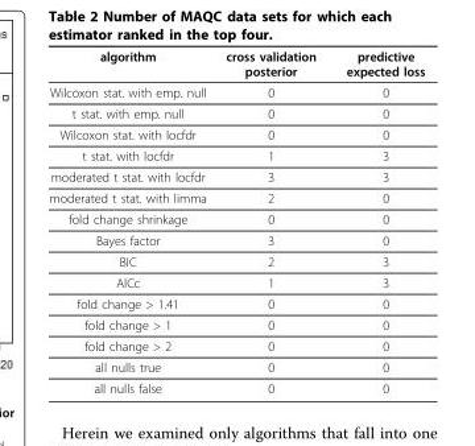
<table><thead><tr><td>algorithm</td><td>cross validation posterior</td><td>predictive expected loss</td></tr></thead><tbody><tr><td>Wilcoxon stat. with emp. null</td><td>0</td><td>0</td></tr><tr><td>t stat. with emp. null</td><td>0</td><td>0</td></tr><tr><td>Wilcoxon stat. with locfdr</td><td>0</td><td>0</td></tr><tr><td>t stat. with locfdr</td><td>1</td><td>3</td></tr><tr><td>moderated t stat. with locfdr</td><td>3</td><td>3</td></tr><tr><td>moderated t stat. with limma</td><td>2</td><td>0</td></tr><tr><td>fold change shrinkage</td><td>0</td><td>0</td></tr><tr><td>Bayes factor</td><td>3</td><td>0</td></tr><tr><td>BIC</td><td>2</td><td>3</td></tr><tr><td>AICc</td><td>1</td><td>3</td></tr><tr><td>fold change &gt; 1.41</td><td>0</td><td>0</td></tr><tr><td>fold change &gt; 1</td><td>0</td><td>0</td></tr><tr><td>fold change &gt; 2</td><td>0</td><td>0</td></tr><tr><td>all nulls true</td><td>0</td><td>0</td></tr><tr><td>all nulls false</td><td>0</td><td>0</td></tr></tbody></table>